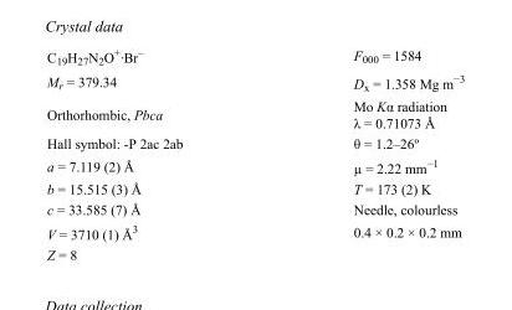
<table><tbody><tr><td>C<sub>19</sub>H<sub>27</sub>N<sub>2</sub>O<sup>+</sup>·Br<sup>–</sup></td><td>F000 = 1584</td></tr><tr><td>M<sub>r</sub> = 379.34</td><td>D<sub>x</sub> = 1.358 Mg m<sup>−3</sup></td></tr><tr><td>Orthorhombic, Pbca</td><td>Mo Kα radiation λ = 0.71073 Å</td></tr><tr><td>Hall symbol: -P 2ac 2ab</td><td>θ = 1.2–26º</td></tr><tr><td>a = 7.119 (2) Å</td><td>µ = 2.22 mm<sup>−1</sup></td></tr><tr><td>b = 15.515 (3) Å</td><td>T = 173 (2) K</td></tr><tr><td>c = 33.585 (7) Å</td><td>Needle, colourless</td></tr><tr><td>V = 3710 (1) Å<sup>3</sup></td><td>0.4 × 0.2 × 0.2 mm</td></tr><tr><td>Z = 8</td><td></td></tr></tbody></table>